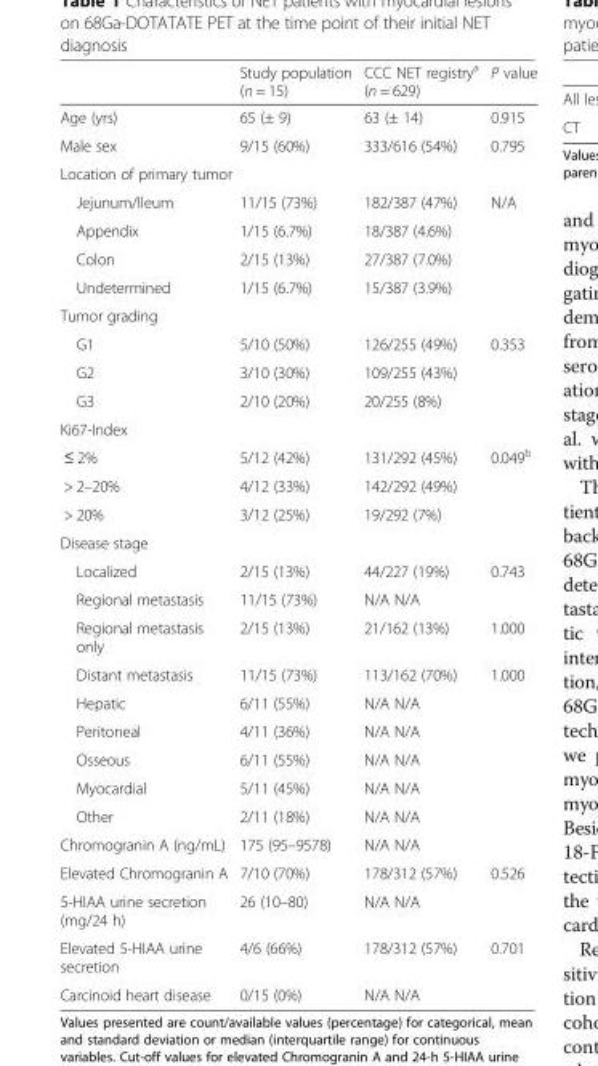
<table><thead><tr><td></td><td>Study population (n = 15)</td><td>CCC NET registry<sup>a</sup> (n = 629)</td><td>P value</td></tr></thead><tbody><tr><td>Age (yrs)</td><td>65 (± 9)</td><td>63 (± 14)</td><td>0.915</td></tr><tr><td>Male sex</td><td>9/15 (60%)</td><td>333/616 (54%)</td><td>0.795</td></tr><tr><td colspan="4">Location of primary tumor</td></tr><tr><td>Jejunum/Ileum</td><td>11/15 (73%)</td><td>182/387 (47%)</td><td rowspan="4">N/A</td></tr><tr><td>Appendix</td><td>1/15 (6.7%)</td><td>18/387 (4.6%)</td></tr><tr><td>Colon</td><td>2/15 (13%)</td><td>27/387 (7.0%)</td></tr><tr><td>Undetermined</td><td>1/15 (6.7%)</td><td>15/387 (3.9%)</td></tr><tr><td colspan="4">Tumor grading</td></tr><tr><td>G1</td><td>5/10 (50%)</td><td>126/255 (49%)</td><td rowspan="3">0.353</td></tr><tr><td>G2</td><td>3/10 (30%)</td><td>109/255 (43%)</td></tr><tr><td>G3</td><td>2/10 (20%)</td><td>20/255 (8%)</td></tr><tr><td colspan="4">Ki67-Index</td></tr><tr><td>≤ 2%</td><td>5/12 (42%)</td><td>131/292 (45%)</td><td rowspan="3">0.049<sup>b</sup></td></tr><tr><td>&gt; 2–20%</td><td>4/12 (33%)</td><td>142/292 (49%)</td></tr><tr><td>&gt; 20%</td><td>3/12 (25%)</td><td>19/292 (7%)</td></tr><tr><td colspan="4">Disease stage</td></tr><tr><td>Localized</td><td>2/15 (13%)</td><td>44/227 (19%)</td><td>0.743</td></tr><tr><td>Regional metastasis</td><td>11/15 (73%)</td><td>N/A N/A</td><td></td></tr><tr><td>Regional metastasis only</td><td>2/15 (13%)</td><td>21/162 (13%)</td><td>1.000</td></tr><tr><td>Distant metastasis</td><td>11/15 (73%)</td><td>113/162 (70%)</td><td>1.000</td></tr><tr><td>Hepatic</td><td>6/11 (55%)</td><td>N/A N/A</td><td></td></tr><tr><td>Peritoneal</td><td>4/11 (36%)</td><td>N/A N/A</td><td></td></tr><tr><td>Osseous</td><td>6/11 (55%)</td><td>N/A N/A</td><td></td></tr><tr><td>Myocardial</td><td>5/11 (45%)</td><td>N/A N/A</td><td></td></tr><tr><td>Other</td><td>2/11 (18%)</td><td>N/A N/A</td><td></td></tr><tr><td>Chromogranin A (ng/mL)</td><td>175 (95–9578)</td><td>N/A N/A</td><td></td></tr><tr><td>Elevated Chromogranin A</td><td>7/10 (70%)</td><td>178/312 (57%)</td><td>0.526</td></tr><tr><td>5-HIAA urine secretion (mg/24 h)</td><td>26 (10–80)</td><td>N/A N/A</td><td></td></tr><tr><td>Elevated 5-HIAA urine secretion</td><td>4/6 (66%)</td><td>178/312 (57%)</td><td>0.701</td></tr><tr><td>Carcinoid heart disease</td><td>0/15 (0%)</td><td>N/A N/A</td><td></td></tr></tbody></table>